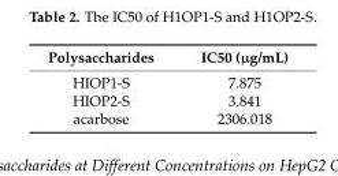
<table><thead><tr><td>Polysaccharides</td><td>IC50 (µg/mL)</td></tr></thead><tbody><tr><td>HIOP1-S</td><td>7.875</td></tr><tr><td>HIOP2-S</td><td>3.841</td></tr><tr><td>acarbose</td><td>2306.018</td></tr></tbody></table>